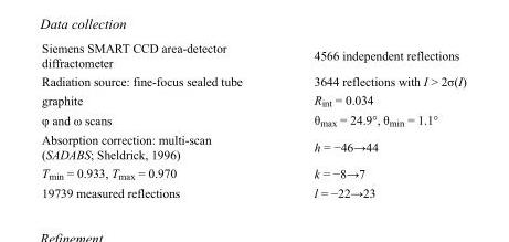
<table><tbody><tr><td>Siemens SMART CCD area-detector diffractometer</td><td>4566 independent reflections</td></tr><tr><td>Radiation source: fine-focus sealed tube</td><td>3644 reflections with I &gt; 2σ(I)</td></tr><tr><td>graphite</td><td>R<sub>int</sub> = 0.034</td></tr><tr><td>φ and ω scans</td><td>θ<sub>max</sub> = 24.9°, θ<sub>min</sub> = 1.1°</td></tr><tr><td>Absorption correction: multi-scan (SADABS; Sheldrick, 1996)</td><td>h = −46→44</td></tr><tr><td>T<sub>min</sub> = 0.933, T<sub>max</sub> = 0.970</td><td>k = −8→7</td></tr><tr><td>19739 measured reflections</td><td>l = −22→23</td></tr></tbody></table>